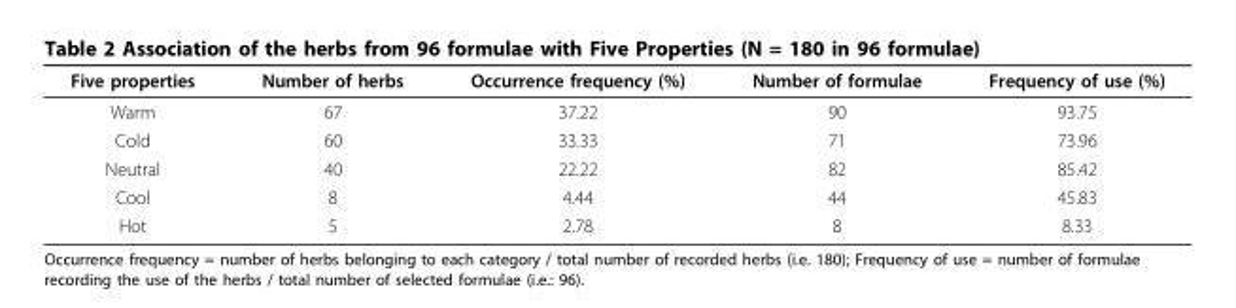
<table><thead><tr><td>Five properties</td><td>Number of herbs</td><td>Occurrence frequency (%)</td><td>Number of formulae</td><td>Frequency of use (%)</td></tr></thead><tbody><tr><td>Warm</td><td>67</td><td>37.22</td><td>90</td><td>93.75</td></tr><tr><td>Cold</td><td>60</td><td>33.33</td><td>71</td><td>73.96</td></tr><tr><td>Neutral</td><td>40</td><td>22.22</td><td>82</td><td>85.42</td></tr><tr><td>Cool</td><td>8</td><td>4.44</td><td>44</td><td>45.83</td></tr><tr><td>Hot</td><td>5</td><td>2.78</td><td>8</td><td>8.33</td></tr></tbody></table>